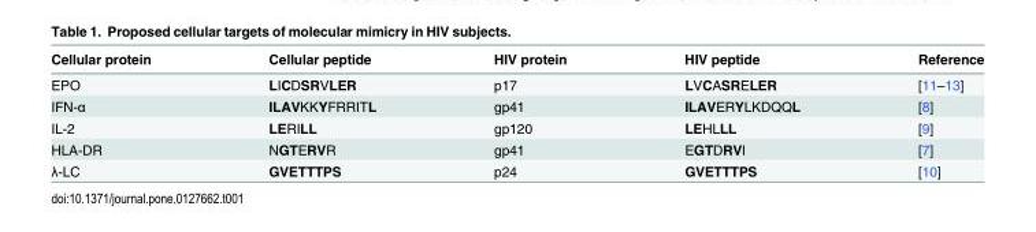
<table><thead><tr><td>Cellular protein</td><td>Cellular peptide</td><td>HIV protein</td><td>HIV peptide</td><td>Reference</td></tr></thead><tbody><tr><td>EPO</td><td>LICDSRVLER</td><td>p17</td><td>LVCASRELER</td><td>[11–13]</td></tr><tr><td>IFN-α</td><td>ILAVKKYFRRITL</td><td>gp41</td><td>ILAVERYLKDQQL</td><td>[8]</td></tr><tr><td>IL-2</td><td>LERILL</td><td>gp120</td><td>LEHLLL</td><td>[9]</td></tr><tr><td>HLA-DR</td><td>NGTERVR</td><td>gp41</td><td>EGTDRVI</td><td>[7]</td></tr><tr><td>λ-LC</td><td>GVETTTPS</td><td>p24</td><td>GVETTTPS</td><td>[10]</td></tr></tbody></table>